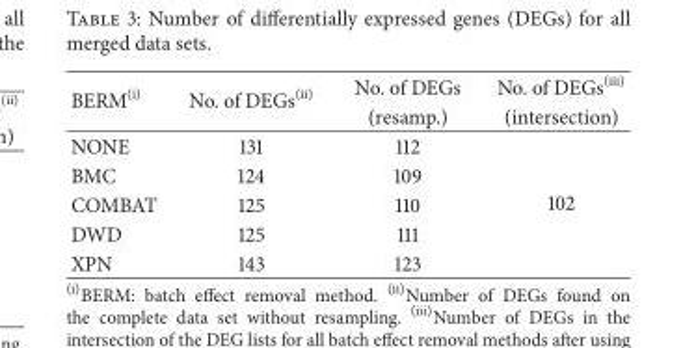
<table><thead><tr><td rowspan="2">BERM<sup>(i)</sup></td><td rowspan="2">No. of DEGs<sup>(ii)</sup></td><td rowspan="2">No. of DEGs (resamp.)</td><td rowspan="2">No. of DEGs<sup>(iii)</sup> (intersection)</td></tr><tr></tr></thead><tbody><tr><td>NONE</td><td>131</td><td>112</td><td rowspan="5">102</td></tr><tr><td>BMC</td><td>124</td><td>109</td></tr><tr><td>COMBAT</td><td>125</td><td>110</td></tr><tr><td>DWD</td><td>125</td><td>111</td></tr><tr><td>XPN</td><td>143</td><td>123</td></tr></tbody></table>